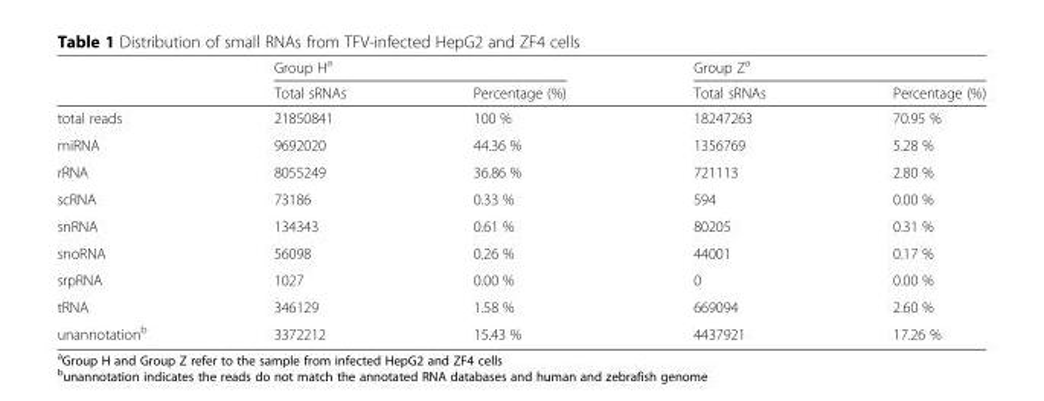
<table><thead><tr><td rowspan="2"></td><td colspan="2">Group H<sup>a</sup></td><td colspan="2">Group Z<sup>a</sup></td></tr><tr><td>Total sRNAs</td><td>Percentage (%)</td><td>Total sRNAs</td><td>Percentage (%)</td></tr></thead><tbody><tr><td>total reads</td><td>21850841</td><td>100 %</td><td>18247263</td><td>70.95 %</td></tr><tr><td>miRNA</td><td>9692020</td><td>44.36 %</td><td>1356769</td><td>5.28 %</td></tr><tr><td>rRNA</td><td>8055249</td><td>36.86 %</td><td>721113</td><td>2.80 %</td></tr><tr><td>scRNA</td><td>73186</td><td>0.33 %</td><td>594</td><td>0.00 %</td></tr><tr><td>snRNA</td><td>134343</td><td>0.61 %</td><td>80205</td><td>0.31 %</td></tr><tr><td>snoRNA</td><td>56098</td><td>0.26 %</td><td>44001</td><td>0.17 %</td></tr><tr><td>srpRNA</td><td>1027</td><td>0.00 %</td><td>0</td><td>0.00 %</td></tr><tr><td>tRNA</td><td>346129</td><td>1.58 %</td><td>669094</td><td>2.60 %</td></tr><tr><td>unannotation<sup>b</sup></td><td>3372212</td><td>15.43 %</td><td>4437921</td><td>17.26 %</td></tr></tbody></table>